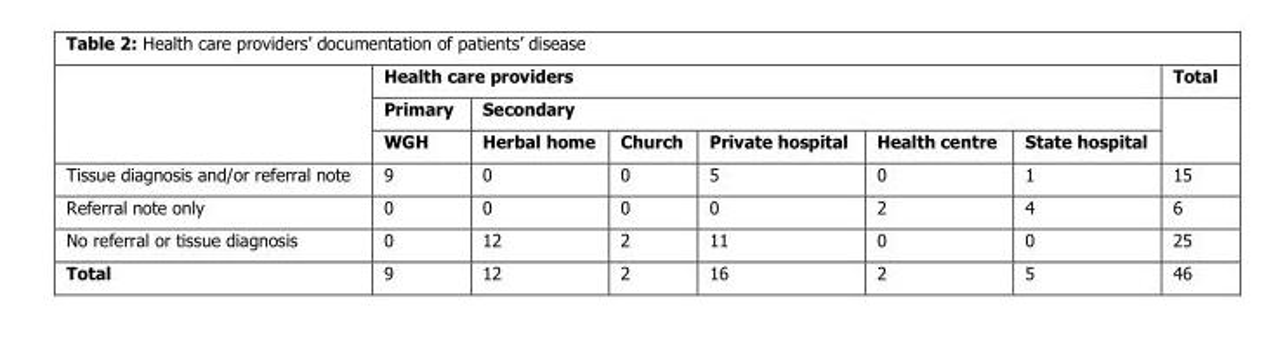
<table><thead><tr><td rowspan="3"></td><td colspan="6">Health care providers</td><td rowspan="3">Total</td></tr><tr><td rowspan="2">Primary WGH</td><td colspan="5">Secondary</td></tr><tr><td>Herbal home</td><td>Church</td><td>Private hospital</td><td>Health centre</td><td>State hospital</td></tr></thead><tbody><tr><td>Tissue diagnosis and/or referral note</td><td>9</td><td>0</td><td>0</td><td>5</td><td>0</td><td>1</td><td>15</td></tr><tr><td>Referral note only</td><td>0</td><td>0</td><td>0</td><td>0</td><td>2</td><td>4</td><td>6</td></tr><tr><td>No referral or tissue diagnosis</td><td>0</td><td>12</td><td>2</td><td>11</td><td>0</td><td>0</td><td>25</td></tr><tr><td>Total</td><td>9</td><td>12</td><td>2</td><td>16</td><td>2</td><td>5</td><td>46</td></tr></tbody></table>